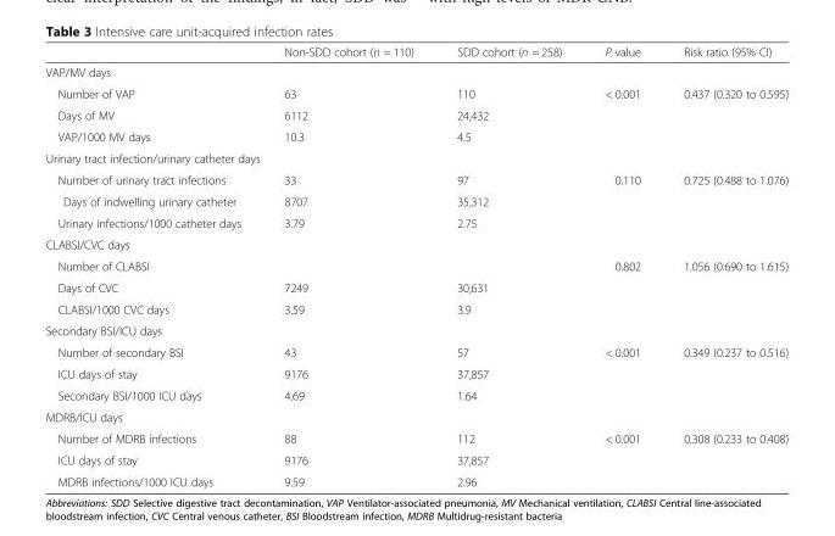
<table><thead><tr><td></td><td>Non-SDD cohort (n = 110)</td><td>SDD cohort (n = 258)</td><td>P value</td><td>Risk ratio (95% CI)</td></tr></thead><tbody><tr><td colspan="5">VAP/MV days</td></tr><tr><td>Number of VAP</td><td>63</td><td>110</td><td>&lt; 0.001</td><td>0.437 (0.320 to 0.595)</td></tr><tr><td>Days of MV</td><td>6112</td><td>24,432</td><td></td><td></td></tr><tr><td>VAP/1000 MV days</td><td>10.3</td><td>4.5</td><td></td><td></td></tr><tr><td colspan="5">Urinary tract infection/urinary catheter days</td></tr><tr><td>Number of urinary tract infections</td><td>33</td><td>97</td><td>0.110</td><td>0.725 (0.488 to 1.076)</td></tr><tr><td>Days of indwelling urinary catheter</td><td>8707</td><td>35,312</td><td></td><td></td></tr><tr><td>Urinary infections/1000 catheter days</td><td>3.79</td><td>2.75</td><td></td><td></td></tr><tr><td colspan="5">CLABSI/CVC days</td></tr><tr><td>Number of CLABSI</td><td></td><td></td><td>0.802</td><td>1.056 (0.690 to 1.615)</td></tr><tr><td>Days of CVC</td><td>7249</td><td>30,631</td><td></td><td></td></tr><tr><td>CLABSI/1000 CVC days</td><td>3.59</td><td>3.9</td><td></td><td></td></tr><tr><td colspan="5">Secondary BSI/ICU days</td></tr><tr><td>Number of secondary BSI</td><td>43</td><td>57</td><td>&lt; 0.001</td><td>0.349 (0.237 to 0.516)</td></tr><tr><td>ICU days of stay</td><td>9176</td><td>37,857</td><td></td><td></td></tr><tr><td>Secondary BSI/1000 ICU days</td><td>4.69</td><td>1.64</td><td></td><td></td></tr><tr><td colspan="5">MDRB/ICU days</td></tr><tr><td>Number of MDRB infections</td><td>88</td><td>112</td><td>&lt; 0.001</td><td>0.308 (0.233 to 0.408)</td></tr><tr><td>ICU days of stay</td><td>9176</td><td>37,857</td><td></td><td></td></tr><tr><td>MDRB infections/1000 ICU days</td><td>9.59</td><td>2.96</td><td></td><td></td></tr></tbody></table>